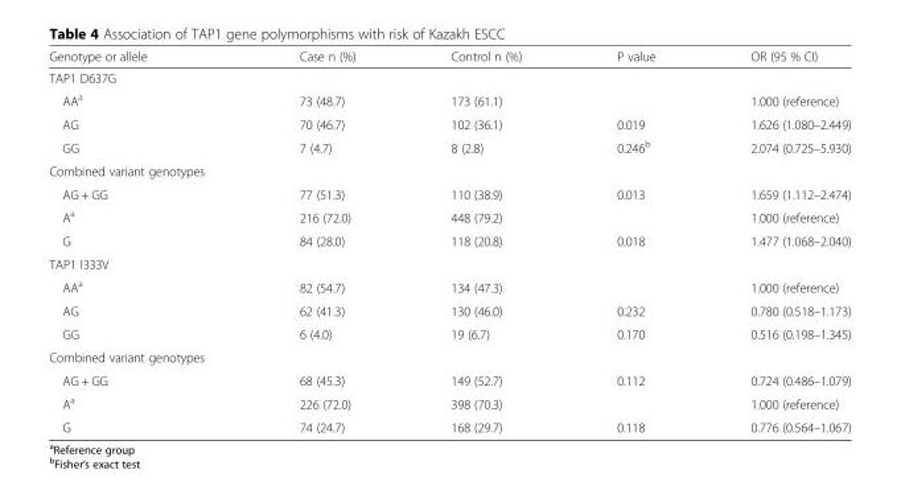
<table><thead><tr><td>Genotype or allele</td><td>Case n (%)</td><td>Control n (%)</td><td>P value</td><td>OR (95 % CI)</td></tr></thead><tbody><tr><td colspan="5">TAP1 D637G</td></tr><tr><td>AA<sup>a</sup></td><td>73 (48.7)</td><td>173 (61.1)</td><td></td><td>1.000 (reference)</td></tr><tr><td>AG</td><td>70 (46.7)</td><td>102 (36.1)</td><td>0.019</td><td>1.626 (1.080–2.449)</td></tr><tr><td>GG</td><td>7 (4.7)</td><td>8 (2.8)</td><td>0.246<sup>b</sup></td><td>2.074 (0.725–5.930)</td></tr><tr><td colspan="5">Combined variant genotypes</td></tr><tr><td>AG + GG</td><td>77 (51.3)</td><td>110 (38.9)</td><td>0.013</td><td>1.659 (1.112–2.474)</td></tr><tr><td>A<sup>a</sup></td><td>216 (72.0)</td><td>448 (79.2)</td><td></td><td>1.000 (reference)</td></tr><tr><td>G</td><td>84 (28.0)</td><td>118 (20.8)</td><td>0.018</td><td>1.477 (1.068–2.040)</td></tr><tr><td colspan="5">TAP1 I333V</td></tr><tr><td>AA<sup>a</sup></td><td>82 (54.7)</td><td>134 (47.3)</td><td></td><td>1.000 (reference)</td></tr><tr><td>AG</td><td>62 (41.3)</td><td>130 (46.0)</td><td>0.232</td><td>0.780 (0.518–1.173)</td></tr><tr><td>GG</td><td>6 (4.0)</td><td>19 (6.7)</td><td>0.170</td><td>0.516 (0.198–1.345)</td></tr><tr><td colspan="5">Combined variant genotypes</td></tr><tr><td>AG + GG</td><td>68 (45.3)</td><td>149 (52.7)</td><td>0.112</td><td>0.724 (0.486–1.079)</td></tr><tr><td>A<sup>a</sup></td><td>226 (72.0)</td><td>398 (70.3)</td><td></td><td>1.000 (reference)</td></tr><tr><td>G</td><td>74 (24.7)</td><td>168 (29.7)</td><td>0.118</td><td>0.776 (0.564–1.067)</td></tr></tbody></table>